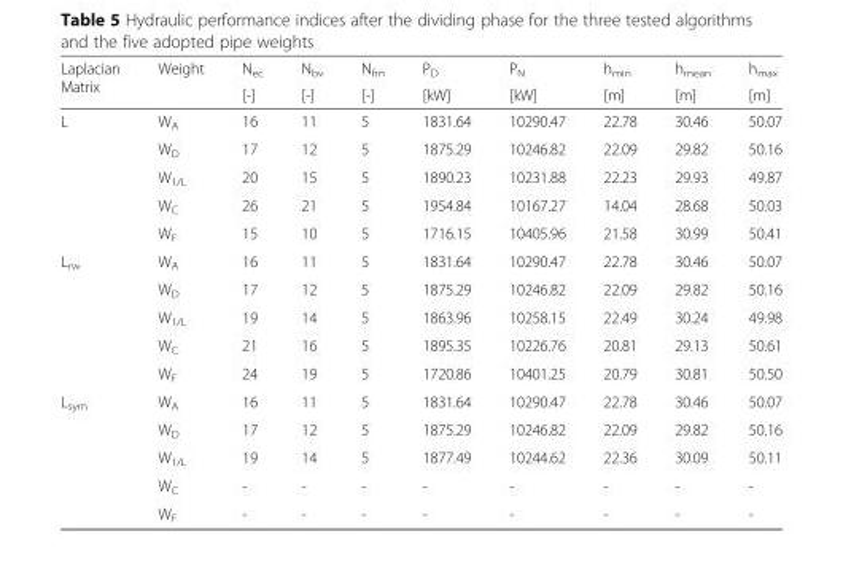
<table><thead><tr><td rowspan="2">Laplacian Matrix</td><td rowspan="2">Weight</td><td rowspan="2">N<sub>ec</sub> [-]</td><td rowspan="2">N<sub>bv</sub> [-]</td><td rowspan="2">N<sub>fm</sub> [-]</td><td rowspan="2">P<sub>D</sub> [kW]</td><td rowspan="2">P<sub>N</sub> [kW]</td><td rowspan="2">h<sub>min</sub> [m]</td><td rowspan="2">h<sub>mean</sub> [m]</td><td rowspan="2">h<sub>max</sub> [m]</td></tr><tr></tr></thead><tbody><tr><td rowspan="5">L</td><td>W<sub>A</sub></td><td>16</td><td>11</td><td>5</td><td>1831.64</td><td>10290.47</td><td>22.78</td><td>30.46</td><td>50.07</td></tr><tr><td>W<sub>D</sub></td><td>17</td><td>12</td><td>5</td><td>1875.29</td><td>10246.82</td><td>22.09</td><td>29.82</td><td>50.16</td></tr><tr><td>W<sub>1/L</sub></td><td>20</td><td>15</td><td>5</td><td>1890.23</td><td>10231.88</td><td>22.23</td><td>29.93</td><td>49.87</td></tr><tr><td>W<sub>C</sub></td><td>26</td><td>21</td><td>5</td><td>1954.84</td><td>10167.27</td><td>14.04</td><td>28.68</td><td>50.03</td></tr><tr><td>W<sub>F</sub></td><td>15</td><td>10</td><td>5</td><td>1716.15</td><td>10405.96</td><td>21.58</td><td>30.99</td><td>50.41</td></tr><tr><td rowspan="5">L<sub>rw</sub></td><td>W<sub>A</sub></td><td>16</td><td>11</td><td>5</td><td>1831.64</td><td>10290.47</td><td>22.78</td><td>30.46</td><td>50.07</td></tr><tr><td>W<sub>D</sub></td><td>17</td><td>12</td><td>5</td><td>1875.29</td><td>10246.82</td><td>22.09</td><td>29.82</td><td>50.16</td></tr><tr><td>W<sub>1/L</sub></td><td>19</td><td>14</td><td>5</td><td>1863.96</td><td>10258.15</td><td>22.49</td><td>30.24</td><td>49.98</td></tr><tr><td>W<sub>C</sub></td><td>21</td><td>16</td><td>5</td><td>1895.35</td><td>10226.76</td><td>20.81</td><td>29.13</td><td>50.61</td></tr><tr><td>W<sub>F</sub></td><td>24</td><td>19</td><td>5</td><td>1720.86</td><td>10401.25</td><td>20.79</td><td>30.81</td><td>50.50</td></tr><tr><td rowspan="5">L<sub>sym</sub></td><td>W<sub>A</sub></td><td>16</td><td>11</td><td>5</td><td>1831.64</td><td>10290.47</td><td>22.78</td><td>30.46</td><td>50.07</td></tr><tr><td>W<sub>D</sub></td><td>17</td><td>12</td><td>5</td><td>1875.29</td><td>10246.82</td><td>22.09</td><td>29.82</td><td>50.16</td></tr><tr><td>W<sub>1/L</sub></td><td>19</td><td>14</td><td>5</td><td>1877.49</td><td>10244.62</td><td>22.36</td><td>30.09</td><td>50.11</td></tr><tr><td>W<sub>C</sub></td><td>-</td><td>-</td><td>-</td><td>-</td><td>-</td><td>-</td><td>-</td><td>-</td></tr><tr><td>W<sub>F</sub></td><td>-</td><td>-</td><td>-</td><td>-</td><td>-</td><td>-</td><td>-</td><td>-</td></tr></tbody></table>